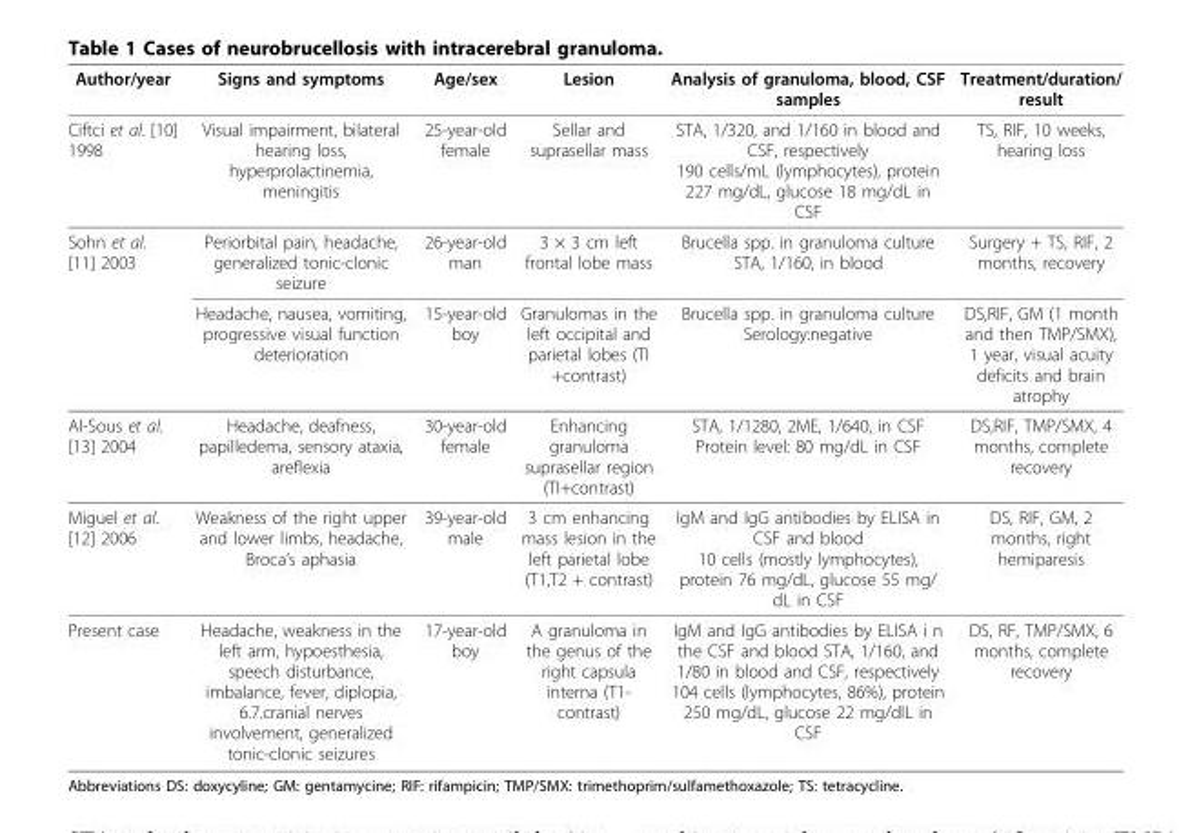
<table><thead><tr><td>Author/year</td><td>Signs and symptoms</td><td>Age/sex</td><td>Lesion</td><td>Analysis of granuloma, blood, CSF samples</td><td>Treatment/duration/ result</td></tr></thead><tbody><tr><td>Ciftci et al. [10] 1998</td><td>Visual impairment, bilateral hearing loss, hyperprolactinemia, meningitis</td><td>25-year-old female</td><td>Sellar and suprasellar mass</td><td>STA, 1/320, and 1/160 in blood and CSF, respectively 190 cells/mL (lymphocytes), protein 227 mg/dL, glucose 18 mg/dL in CSF</td><td>TS, RIF, 10 weeks, hearing loss</td></tr><tr><td rowspan="2">Sohn et al. [11] 2003</td><td>Periorbital pain, headache, generalized tonic-clonic seizure</td><td>26-year-old man</td><td>3 × 3 cm left frontal lobe mass</td><td>Brucella spp. in granuloma culture STA, 1/160, in blood</td><td>Surgery + TS, RIF, 2 months, recovery</td></tr><tr><td>Headache, nausea, vomiting, progressive visual function deterioration</td><td>15-year-old boy</td><td>Granulomas in the left occipital and parietal lobes (TI +contrast)</td><td>Brucella spp. in granuloma culture Serology:negative</td><td>DS,RIF, GM (1 month and then TMP/SMX), 1 year, visual acuity deficits and brain atrophy</td></tr><tr><td>Al-Sous et al. [13] 2004</td><td>Headache, deafness, papilledema, sensory ataxia, areflexia</td><td>30-year-old female</td><td>Enhancing granuloma suprasellar region (TI+contrast)</td><td>STA, 1/1280, 2ME, 1/640, in CSF Protein level: 80 mg/dL in CSF</td><td>DS,RIF, TMP/SMX, 4 months, complete recovery</td></tr><tr><td>Miguel et al. [12] 2006</td><td>Weakness of the right upper and lower limbs, headache, Broca’s aphasia</td><td>39-year-old male</td><td>3 cm enhancing mass lesion in the left parietal lobe (T1,T2 + contrast)</td><td>IgM and IgG antibodies by ELISA in CSF and blood 10 cells (mostly lymphocytes), protein 76 mg/dL, glucose 55 mg/ dL in CSF</td><td>DS, RIF, GM, 2 months, right hemiparesis</td></tr><tr><td>Present case</td><td>Headache, weakness in the left arm, hypoesthesia, speech disturbance, imbalance, fever, diplopia, 6.7.cranial nerves involvement, generalized tonic-clonic seizures</td><td>17-year-old boy</td><td>A granuloma in the genus of the right capsula interna (T1- contrast)</td><td>IgM and IgG antibodies by ELISA i n the CSF and blood STA, 1/160, and 1/80 in blood and CSF, respectively 104 cells (lymphocytes, 86%), protein 250 mg/dL, glucose 22 mg/dlL in CSF</td><td>DS, RF, TMP/SMX, 6 months, complete recovery</td></tr></tbody></table>